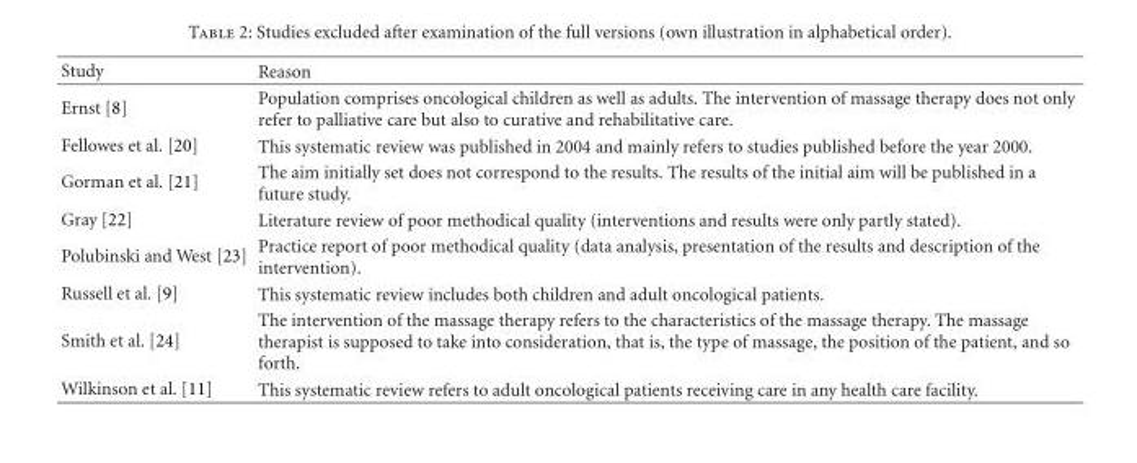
<table><thead><tr><td>Study</td><td>Reason</td></tr></thead><tbody><tr><td>Ernst [8]</td><td>Population comprises oncological children as well as adults. The intervention of massage therapy does not only refer to palliative care but also to curative and rehabilitative care.</td></tr><tr><td>Fellowes et al. [20]</td><td>This systematic review was published in 2004 and mainly refers to studies published before the year 2000.</td></tr><tr><td>Gorman et al. [21]</td><td>The aim initially set does not correspond to the results. The results of the initial aim will be published in a future study.</td></tr><tr><td>Gray [22]</td><td>Literature review of poor methodical quality (interventions and results were only partly stated).</td></tr><tr><td>Polubinski and West [23]</td><td>Practice report of poor methodical quality (data analysis, presentation of the results and description of the intervention).</td></tr><tr><td>Russell et al. [9]</td><td>This systematic review includes both children and adult oncological patients.</td></tr><tr><td>Smith et al. [24]</td><td>The intervention of the massage therapy refers to the characteristics of the massage therapy. The massage therapist is supposed to take into consideration, that is, the type of massage, the position of the patient, and so forth.</td></tr><tr><td>Wilkinson et al. [11]</td><td>This systematic review refers to adult oncological patients receiving care in any health care facility.</td></tr></tbody></table>